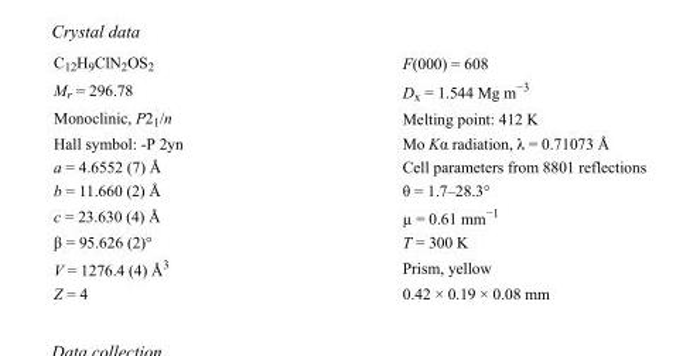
<table><tbody><tr><td>C<sub>12</sub>H<sub>9</sub>ClN<sub>2</sub>OS<sub>2</sub></td><td>F(000) = 608</td></tr><tr><td>M<sub>r</sub> = 296.78</td><td>D<sub>x</sub> = 1.544 Mg m<sup>−3</sup></td></tr><tr><td>Monoclinic, P2<sub>1</sub>/n</td><td>Melting point: 412 K</td></tr><tr><td>Hall symbol: -P 2yn</td><td>Mo Kα radiation, λ = 0.71073 Å</td></tr><tr><td>a = 4.6552 (7) Å</td><td>Cell parameters from 8801 reflections</td></tr><tr><td>b = 11.660 (2) Å</td><td>θ = 1.7–28.3°</td></tr><tr><td>c = 23.630 (4) Å</td><td>µ = 0.61 mm<sup>−1</sup></td></tr><tr><td>β = 95.626 (2)°</td><td>T = 300 K</td></tr><tr><td>V = 1276.4 (4) Å<sup>3</sup></td><td>Prism, yellow</td></tr><tr><td>Z = 4</td><td>0.42 × 0.19 × 0.08 mm</td></tr></tbody></table>